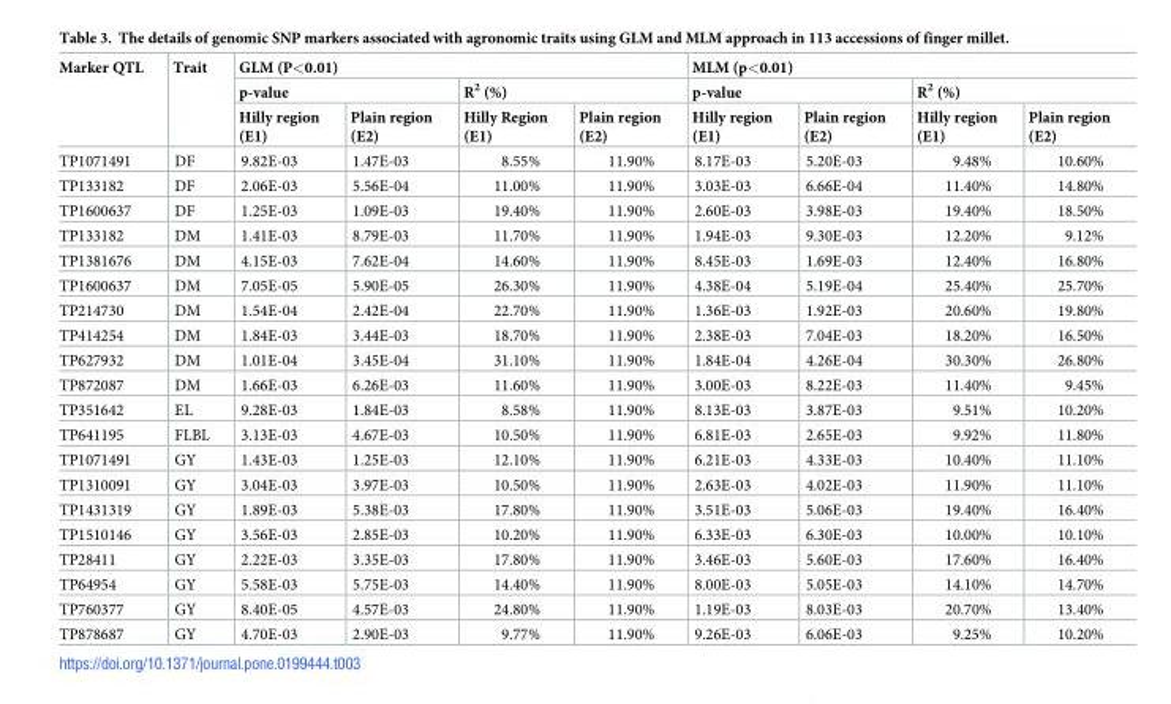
<table><thead><tr><td rowspan="3">Marker QTL</td><td rowspan="3">Trait</td><td colspan="4">GLM (P&lt;0.01)</td><td colspan="4">MLM (p&lt;0.01)</td></tr><tr><td colspan="2">p-value</td><td colspan="2">R<sup>2</sup> (%)</td><td colspan="2">p-value</td><td colspan="2">R<sup>2</sup> (%)</td></tr><tr><td>Hilly region (E1)</td><td>Plain region (E2)</td><td>Hilly Region (E1)</td><td>Plain region (E2)</td><td>Hilly region (E1)</td><td>Plain region (E2)</td><td>Hilly region (E1)</td><td>Plain region (E2)</td></tr></thead><tbody><tr><td>TP1071491</td><td>DF</td><td>9.82E-03</td><td>1.47E-03</td><td>8.55%</td><td>11.90%</td><td>8.17E-03</td><td>5.20E-03</td><td>9.48%</td><td>10.60%</td></tr><tr><td>TP133182</td><td>DF</td><td>2.06E-03</td><td>5.56E-04</td><td>11.00%</td><td>11.90%</td><td>3.03E-03</td><td>6.66E-04</td><td>11.40%</td><td>14.80%</td></tr><tr><td>TP1600637</td><td>DF</td><td>1.25E-03</td><td>1.09E-03</td><td>19.40%</td><td>11.90%</td><td>2.60E-03</td><td>3.98E-03</td><td>19.40%</td><td>18.50%</td></tr><tr><td>TP133182</td><td>DM</td><td>1.41E-03</td><td>8.79E-03</td><td>11.70%</td><td>11.90%</td><td>1.94E-03</td><td>9.30E-03</td><td>12.20%</td><td>9.12%</td></tr><tr><td>TP1381676</td><td>DM</td><td>4.15E-03</td><td>7.62E-04</td><td>14.60%</td><td>11.90%</td><td>8.45E-03</td><td>1.69E-03</td><td>12.40%</td><td>16.80%</td></tr><tr><td>TP1600637</td><td>DM</td><td>7.05E-05</td><td>5.90E-05</td><td>26.30%</td><td>11.90%</td><td>4.38E-04</td><td>5.19E-04</td><td>25.40%</td><td>25.70%</td></tr><tr><td>TP214730</td><td>DM</td><td>1.54E-04</td><td>2.42E-04</td><td>22.70%</td><td>11.90%</td><td>1.36E-03</td><td>1.92E-03</td><td>20.60%</td><td>19.80%</td></tr><tr><td>TP414254</td><td>DM</td><td>1.84E-03</td><td>3.44E-03</td><td>18.70%</td><td>11.90%</td><td>2.38E-03</td><td>7.04E-03</td><td>18.20%</td><td>16.50%</td></tr><tr><td>TP627932</td><td>DM</td><td>1.01E-04</td><td>3.45E-04</td><td>31.10%</td><td>11.90%</td><td>1.84E-04</td><td>4.26E-04</td><td>30.30%</td><td>26.80%</td></tr><tr><td>TP872087</td><td>DM</td><td>1.66E-03</td><td>6.26E-03</td><td>11.60%</td><td>11.90%</td><td>3.00E-03</td><td>8.22E-03</td><td>11.40%</td><td>9.45%</td></tr><tr><td>TP351642</td><td>EL</td><td>9.28E-03</td><td>1.84E-03</td><td>8.58%</td><td>11.90%</td><td>8.13E-03</td><td>3.87E-03</td><td>9.51%</td><td>10.20%</td></tr><tr><td>TP641195</td><td>FLBL</td><td>3.13E-03</td><td>4.67E-03</td><td>10.50%</td><td>11.90%</td><td>6.81E-03</td><td>2.65E-03</td><td>9.92%</td><td>11.80%</td></tr><tr><td>TP1071491</td><td>GY</td><td>1.43E-03</td><td>1.25E-03</td><td>12.10%</td><td>11.90%</td><td>6.21E-03</td><td>4.33E-03</td><td>10.40%</td><td>11.10%</td></tr><tr><td>TP1310091</td><td>GY</td><td>3.04E-03</td><td>3.97E-03</td><td>10.50%</td><td>11.90%</td><td>2.63E-03</td><td>4.02E-03</td><td>11.90%</td><td>11.10%</td></tr><tr><td>TP1431319</td><td>GY</td><td>1.89E-03</td><td>5.38E-03</td><td>17.80%</td><td>11.90%</td><td>3.51E-03</td><td>5.06E-03</td><td>19.40%</td><td>16.40%</td></tr><tr><td>TP1510146</td><td>GY</td><td>3.56E-03</td><td>2.85E-03</td><td>10.20%</td><td>11.90%</td><td>6.33E-03</td><td>6.30E-03</td><td>10.00%</td><td>10.10%</td></tr><tr><td>TP28411</td><td>GY</td><td>2.22E-03</td><td>3.35E-03</td><td>17.80%</td><td>11.90%</td><td>3.46E-03</td><td>5.60E-03</td><td>17.60%</td><td>16.40%</td></tr><tr><td>TP64954</td><td>GY</td><td>5.58E-03</td><td>5.75E-03</td><td>14.40%</td><td>11.90%</td><td>8.00E-03</td><td>5.05E-03</td><td>14.10%</td><td>14.70%</td></tr><tr><td>TP760377</td><td>GY</td><td>8.40E-05</td><td>4.57E-03</td><td>24.80%</td><td>11.90%</td><td>1.19E-03</td><td>8.03E-03</td><td>20.70%</td><td>13.40%</td></tr><tr><td>TP878687</td><td>GY</td><td>4.70E-03</td><td>2.90E-03</td><td>9.77%</td><td>11.90%</td><td>9.26E-03</td><td>6.06E-03</td><td>9.25%</td><td>10.20%</td></tr></tbody></table>